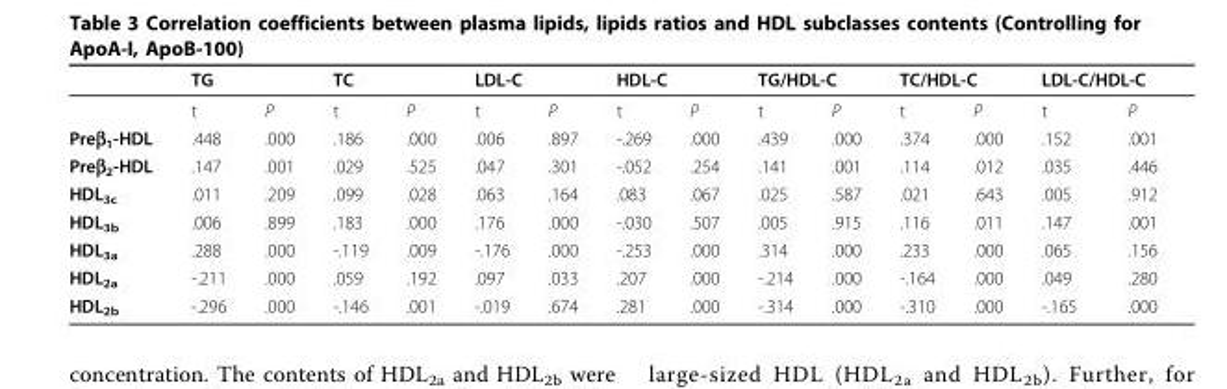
<table><thead><tr><td rowspan="2"></td><td colspan="2">TG</td><td colspan="2">TC</td><td colspan="2">LDL-C</td><td colspan="2">HDL-C</td><td colspan="2">TG/HDL-C</td><td colspan="2">TC/HDL-C</td><td colspan="2">LDL-C/HDL-C</td></tr><tr><td>t</td><td>P</td><td>t</td><td>P</td><td>t</td><td>P</td><td>t</td><td>P</td><td>t</td><td>P</td><td>t</td><td>P</td><td>t</td><td>P</td></tr></thead><tbody><tr><td>Preβ<sub>1</sub>-HDL</td><td>.448</td><td>.000</td><td>.186</td><td>.000</td><td>.006</td><td>.897</td><td>-.269</td><td>.000</td><td>.439</td><td>.000</td><td>.374</td><td>.000</td><td>.152</td><td>.001</td></tr><tr><td>Preβ<sub>2</sub>-HDL</td><td>.147</td><td>.001</td><td>.029</td><td>.525</td><td>.047</td><td>.301</td><td>-.052</td><td>.254</td><td>.141</td><td>.001</td><td>.114</td><td>.012</td><td>.035</td><td>.446</td></tr><tr><td>HDL<sub>3c</sub></td><td>.011</td><td>.209</td><td>.099</td><td>.028</td><td>.063</td><td>.164</td><td>.083</td><td>.067</td><td>.025</td><td>.587</td><td>.021</td><td>.643</td><td>.005</td><td>.912</td></tr><tr><td>HDL<sub>3b</sub></td><td>.006</td><td>.899</td><td>.183</td><td>.000</td><td>.176</td><td>.000</td><td>-.030</td><td>.507</td><td>.005</td><td>.915</td><td>.116</td><td>.011</td><td>.147</td><td>.001</td></tr><tr><td>HDL<sub>3a</sub></td><td>.288</td><td>.000</td><td>-.119</td><td>.009</td><td>-.176</td><td>.000</td><td>-.253</td><td>.000</td><td>.314</td><td>.000</td><td>.233</td><td>.000</td><td>.065</td><td>.156</td></tr><tr><td>HDL<sub>2a</sub></td><td>-.211</td><td>.000</td><td>.059</td><td>.192</td><td>.097</td><td>.033</td><td>.207</td><td>.000</td><td>-.214</td><td>.000</td><td>-.164</td><td>.000</td><td>.049</td><td>.280</td></tr><tr><td>HDL<sub>2b</sub></td><td>-.296</td><td>.000</td><td>-.146</td><td>.001</td><td>-.019</td><td>.674</td><td>.281</td><td>.000</td><td>-.314</td><td>.000</td><td>-.310</td><td>.000</td><td>-.165</td><td>.000</td></tr></tbody></table>